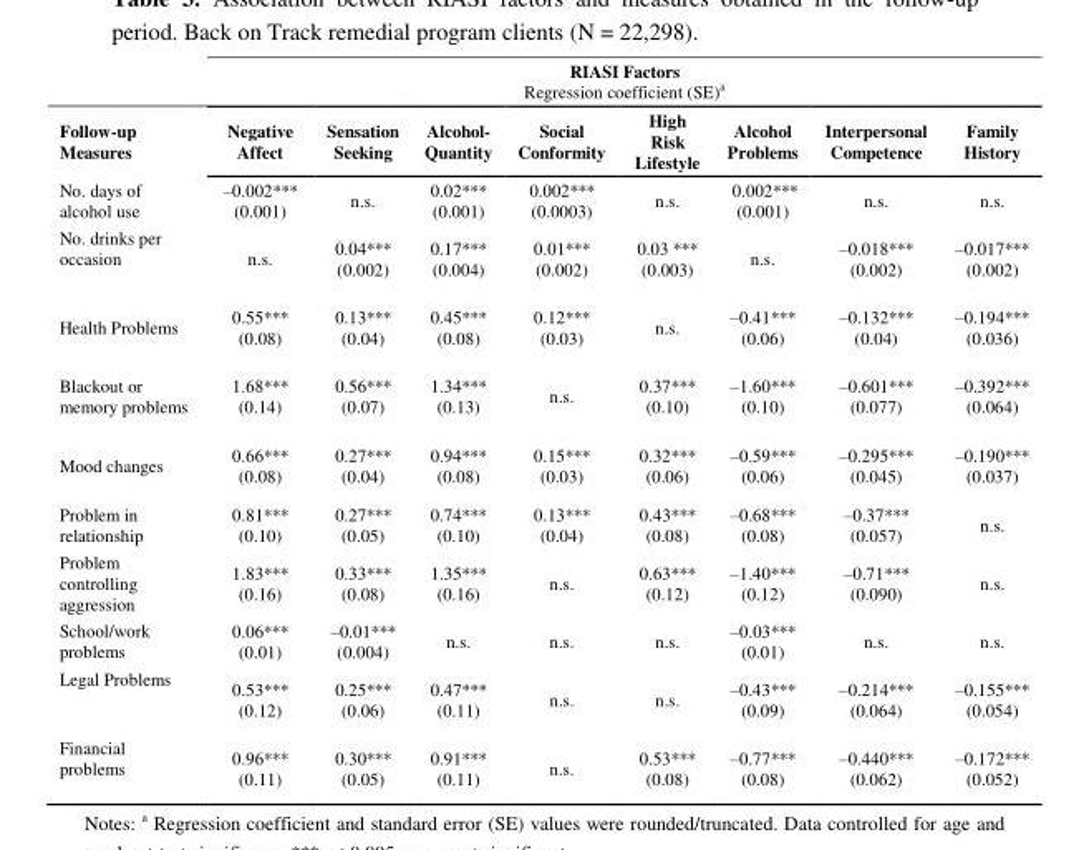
<table><thead><tr><td rowspan="2">Follow-up Measures</td><td colspan="8">RIASI Factors Regression coefficient (SE)<sup>a</sup></td></tr><tr><td>Negative Affect</td><td>Sensation Seeking</td><td>Alcohol- Quantity</td><td>Social Conformity</td><td>High Risk Lifestyle</td><td>Alcohol Problems</td><td>Interpersonal Competence</td><td>Family History</td></tr></thead><tbody><tr><td>No. days of alcohol use</td><td>–0.002*** (0.001)</td><td>n.s.</td><td>0.02*** (0.001)</td><td>0.002*** (0.0003)</td><td>n.s.</td><td>0.002*** (0.001)</td><td>n.s.</td><td>n.s.</td></tr><tr><td>No. drinks per occasion</td><td>n.s.</td><td>0.04*** (0.002)</td><td>0.17*** (0.004)</td><td>0.01*** (0.002)</td><td>0.03 *** (0.003)</td><td>n.s.</td><td>–0.018*** (0.002)</td><td>–0.017*** (0.002)</td></tr><tr><td>Health Problems</td><td>0.55*** (0.08)</td><td>0.13*** (0.04)</td><td>0.45*** (0.08)</td><td>0.12*** (0.03)</td><td>n.s.</td><td>–0.41*** (0.06)</td><td>–0.132*** (0.04)</td><td>–0.194*** (0.036)</td></tr><tr><td>Blackout or memory problems</td><td>1.68*** (0.14)</td><td>0.56*** (0.07)</td><td>1.34*** (0.13)</td><td>n.s.</td><td>0.37*** (0.10)</td><td>–1.60*** (0.10)</td><td>–0.601*** (0.077)</td><td>–0.392*** (0.064)</td></tr><tr><td>Mood changes</td><td>0.66*** (0.08)</td><td>0.27*** (0.04)</td><td>0.94*** (0.08)</td><td>0.15*** (0.03)</td><td>0.32*** (0.06)</td><td>–0.59*** (0.06)</td><td>–0.295*** (0.045)</td><td>–0.190*** (0.037)</td></tr><tr><td>Problem in relationship</td><td>0.81*** (0.10)</td><td>0.27*** (0.05)</td><td>0.74*** (0.10)</td><td>0.13*** (0.04)</td><td>0.43*** (0.08)</td><td>–0.68*** (0.08)</td><td>–0.37*** (0.057)</td><td>n.s.</td></tr><tr><td>Problem controlling aggression</td><td>1.83*** (0.16)</td><td>0.33*** (0.08)</td><td>1.35*** (0.16)</td><td>n.s.</td><td>0.63*** (0.12)</td><td>–1.40*** (0.12)</td><td>–0.71*** (0.090)</td><td>n.s.</td></tr><tr><td>School/work problems</td><td>0.06*** (0.01)</td><td>–0.01*** (0.004)</td><td>n.s.</td><td>n.s.</td><td>n.s.</td><td>–0.03*** (0.01)</td><td>n.s.</td><td>n.s.</td></tr><tr><td>Legal Problems</td><td>0.53*** (0.12)</td><td>0.25*** (0.06)</td><td>0.47*** (0.11)</td><td>n.s.</td><td>n.s.</td><td>–0.43*** (0.09)</td><td>–0.214*** (0.064)</td><td>–0.155*** (0.054)</td></tr><tr><td>Financial problems</td><td>0.96*** (0.11)</td><td>0.30*** (0.05)</td><td>0.91*** (0.11)</td><td>n.s.</td><td>0.53*** (0.08)</td><td>–0.77*** (0.08)</td><td>–0.440*** (0.062)</td><td>–0.172*** (0.052)</td></tr></tbody></table>